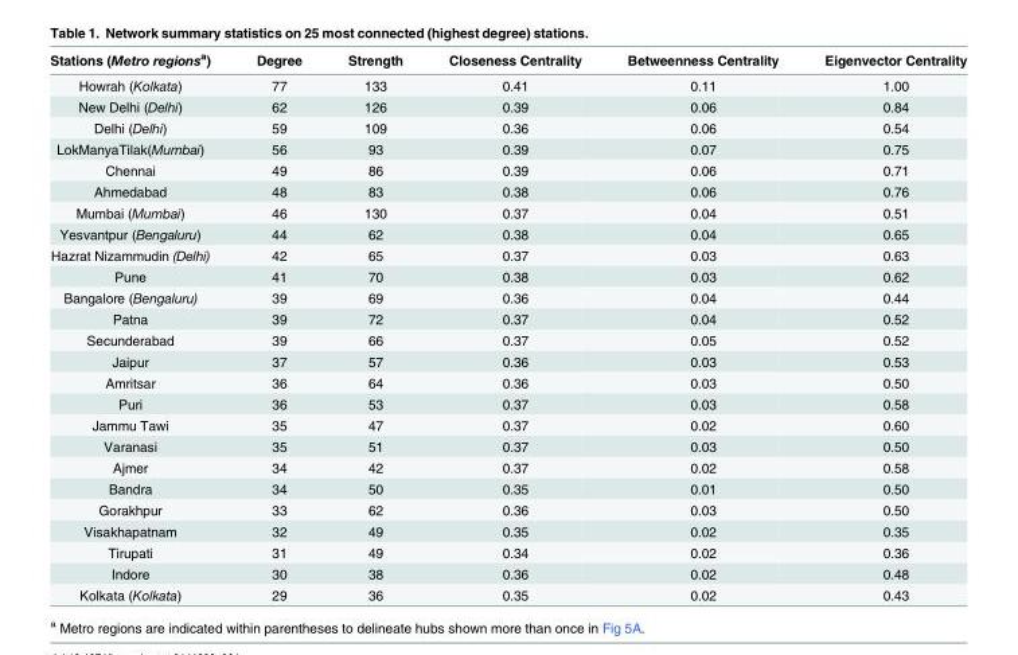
<table><thead><tr><td>Stations (Metro regions<sup>a</sup>)</td><td>Degree</td><td>Strength</td><td>Closeness Centrality</td><td>Betweenness Centrality</td><td>Eigenvector Centrality</td></tr></thead><tbody><tr><td>Howrah (Kolkata)</td><td>77</td><td>133</td><td>0.41</td><td>0.11</td><td>1.00</td></tr><tr><td>New Delhi (Delhi)</td><td>62</td><td>126</td><td>0.39</td><td>0.06</td><td>0.84</td></tr><tr><td>Delhi (Delhi)</td><td>59</td><td>109</td><td>0.36</td><td>0.06</td><td>0.54</td></tr><tr><td>LokManyaTilak(Mumbai)</td><td>56</td><td>93</td><td>0.39</td><td>0.07</td><td>0.75</td></tr><tr><td>Chennai</td><td>49</td><td>86</td><td>0.39</td><td>0.06</td><td>0.71</td></tr><tr><td>Ahmedabad</td><td>48</td><td>83</td><td>0.38</td><td>0.06</td><td>0.76</td></tr><tr><td>Mumbai (Mumbai)</td><td>46</td><td>130</td><td>0.37</td><td>0.04</td><td>0.51</td></tr><tr><td>Yesvantpur (Bengaluru)</td><td>44</td><td>62</td><td>0.38</td><td>0.04</td><td>0.65</td></tr><tr><td>Hazrat Nizammudin (Delhi)</td><td>42</td><td>65</td><td>0.37</td><td>0.03</td><td>0.63</td></tr><tr><td>Pune</td><td>41</td><td>70</td><td>0.38</td><td>0.03</td><td>0.62</td></tr><tr><td>Bangalore (Bengaluru)</td><td>39</td><td>69</td><td>0.36</td><td>0.04</td><td>0.44</td></tr><tr><td>Patna</td><td>39</td><td>72</td><td>0.37</td><td>0.04</td><td>0.52</td></tr><tr><td>Secunderabad</td><td>39</td><td>66</td><td>0.37</td><td>0.05</td><td>0.52</td></tr><tr><td>Jaipur</td><td>37</td><td>57</td><td>0.36</td><td>0.03</td><td>0.53</td></tr><tr><td>Amritsar</td><td>36</td><td>64</td><td>0.36</td><td>0.03</td><td>0.50</td></tr><tr><td>Puri</td><td>36</td><td>53</td><td>0.37</td><td>0.03</td><td>0.58</td></tr><tr><td>Jammu Tawi</td><td>35</td><td>47</td><td>0.37</td><td>0.02</td><td>0.60</td></tr><tr><td>Varanasi</td><td>35</td><td>51</td><td>0.37</td><td>0.03</td><td>0.50</td></tr><tr><td>Ajmer</td><td>34</td><td>42</td><td>0.37</td><td>0.02</td><td>0.58</td></tr><tr><td>Bandra</td><td>34</td><td>50</td><td>0.35</td><td>0.01</td><td>0.50</td></tr><tr><td>Gorakhpur</td><td>33</td><td>62</td><td>0.36</td><td>0.03</td><td>0.50</td></tr><tr><td>Visakhapatnam</td><td>32</td><td>49</td><td>0.35</td><td>0.02</td><td>0.35</td></tr><tr><td>Tirupati</td><td>31</td><td>49</td><td>0.34</td><td>0.02</td><td>0.36</td></tr><tr><td>Indore</td><td>30</td><td>38</td><td>0.36</td><td>0.02</td><td>0.48</td></tr><tr><td>Kolkata (Kolkata)</td><td>29</td><td>36</td><td>0.35</td><td>0.02</td><td>0.43</td></tr></tbody></table>